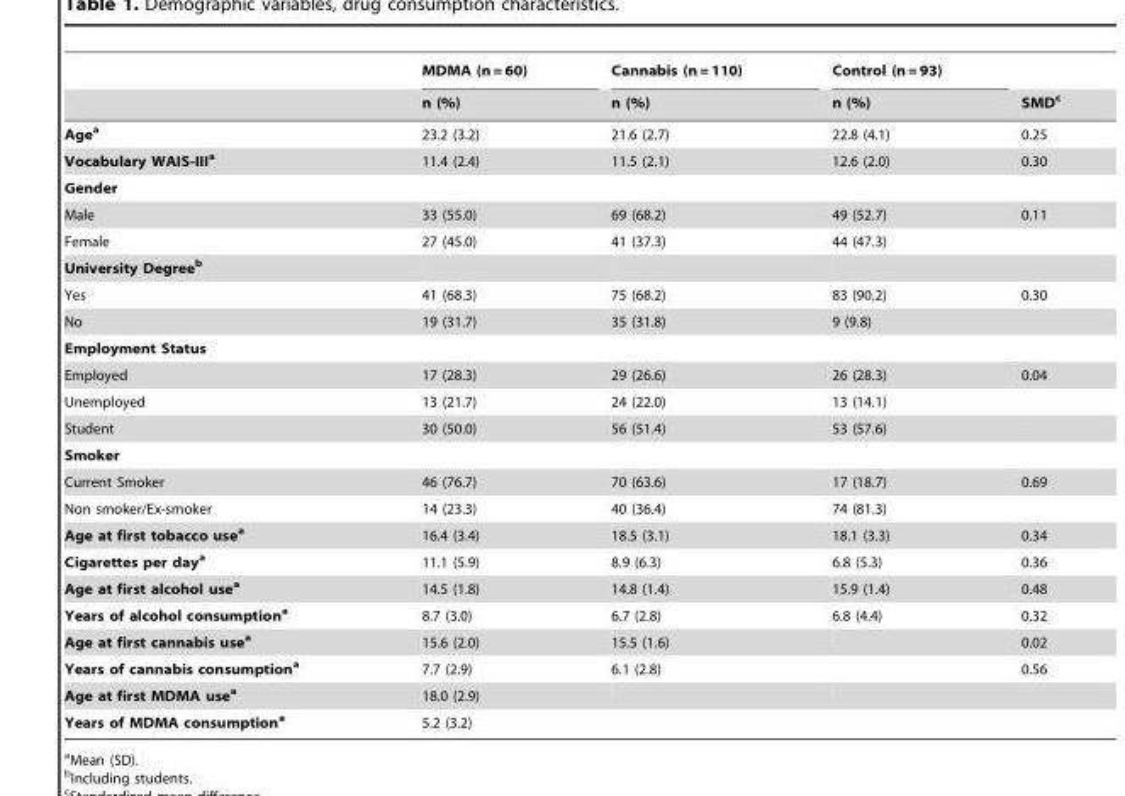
<table><thead><tr><td rowspan="2"></td><td rowspan="2">MDMA (n = 60) n (%)</td><td rowspan="2">Cannabis (n = 110) n (%)</td><td rowspan="2">Control (n = 93) n (%)</td><td rowspan="2">SMD<sup>c</sup></td></tr><tr></tr></thead><tbody><tr><td>Agea</td><td>23.2 (3.2)</td><td>21.6 (2.7)</td><td>22.8 (4.1)</td><td>0.25</td></tr><tr><td>Vocabulary WAIS-IIIa</td><td>11.4 (2.4)</td><td>11.5 (2.1)</td><td>12.6 (2.0)</td><td>0.30</td></tr><tr><td colspan="5">Gender</td></tr><tr><td>Male</td><td>33 (55.0)</td><td>69 (68.2)</td><td>49 (52.7)</td><td>0.11</td></tr><tr><td>Female</td><td>27 (45.0)</td><td>41 (37.3)</td><td>44 (47.3)</td><td></td></tr><tr><td colspan="5">University Degreeb</td></tr><tr><td>Yes</td><td>41 (68.3)</td><td>75 (68.2)</td><td>83 (90.2)</td><td>0.30</td></tr><tr><td>No</td><td>19 (31.7)</td><td>35 (31.8)</td><td>9 (9.8)</td><td></td></tr><tr><td colspan="5">Employment Status</td></tr><tr><td>Employed</td><td>17 (28.3)</td><td>29 (26.6)</td><td>26 (28.3)</td><td>0.04</td></tr><tr><td>Unemployed</td><td>13 (21.7)</td><td>24 (22.0)</td><td>13 (14.1)</td><td></td></tr><tr><td>Student</td><td>30 (50.0)</td><td>56 (51.4)</td><td>53 (57.6)</td><td></td></tr><tr><td colspan="5">Smoker</td></tr><tr><td>Current Smoker</td><td>46 (76.7)</td><td>70 (63.6)</td><td>17 (18.7)</td><td>0.69</td></tr><tr><td>Non smoker/Ex-smoker</td><td>14 (23.3)</td><td>40 (36.4)</td><td>74 (81.3)</td><td></td></tr><tr><td>Age at first tobacco usea</td><td>16.4 (3.4)</td><td>18.5 (3.1)</td><td>18.1 (3.3)</td><td>0.34</td></tr><tr><td>Cigarettes per daya</td><td>11.1 (5.9)</td><td>8.9 (6.3)</td><td>6.8 (5.3)</td><td>0.36</td></tr><tr><td>Age at first alcohol usea</td><td>14.5 (1.8)</td><td>14.8 (1.4)</td><td>15.9 (1.4)</td><td>0.48</td></tr><tr><td>Years of alcohol consumptiona</td><td>8.7 (3.0)</td><td>6.7 (2.8)</td><td>6.8 (4.4)</td><td>0.32</td></tr><tr><td>Age at first cannabis usea</td><td>15.6 (2.0)</td><td>15.5 (1.6)</td><td></td><td>0.02</td></tr><tr><td>Years of cannabis consumptiona</td><td>7.7 (2.9)</td><td>6.1 (2.8)</td><td></td><td>0.56</td></tr><tr><td>Age at first MDMA usea</td><td>18.0 (2.9)</td><td></td><td></td><td></td></tr><tr><td>Years of MDMA consumptiona</td><td>5.2 (3.2)</td><td></td><td></td><td></td></tr></tbody></table>